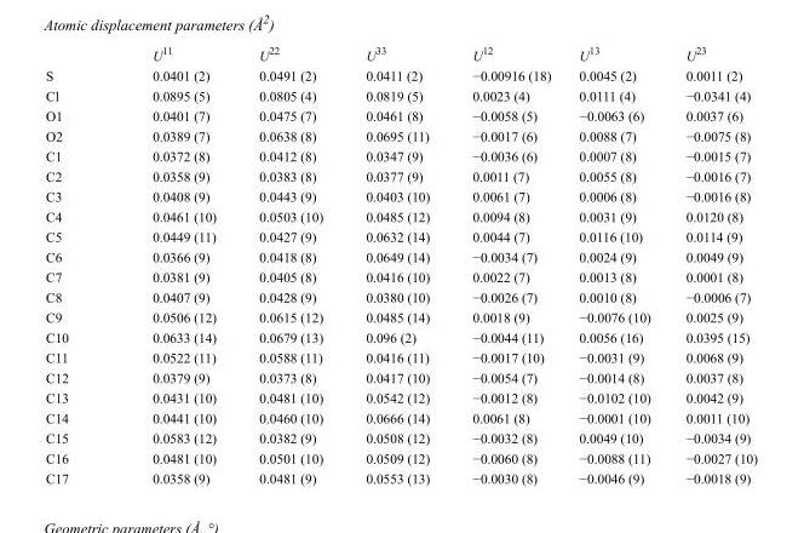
<table><thead><tr><td></td><td>U<sup>11</sup></td><td>U<sup>22</sup></td><td>U<sup>33</sup></td><td>U<sup>12</sup></td><td>U<sup>13</sup></td><td>U<sup>23</sup></td></tr></thead><tbody><tr><td>S</td><td>0.0401 (2)</td><td>0.0491 (2)</td><td>0.0411 (2)</td><td>−0.00916 (18)</td><td>0.0045 (2)</td><td>0.0011 (2)</td></tr><tr><td>Cl</td><td>0.0895 (5)</td><td>0.0805 (4)</td><td>0.0819 (5)</td><td>0.0023 (4)</td><td>0.0111 (4)</td><td>−0.0341 (4)</td></tr><tr><td>O1</td><td>0.0401 (7)</td><td>0.0475 (7)</td><td>0.0461 (8)</td><td>−0.0058 (5)</td><td>−0.0063 (6)</td><td>0.0037 (6)</td></tr><tr><td>O2</td><td>0.0389 (7)</td><td>0.0638 (8)</td><td>0.0695 (11)</td><td>−0.0017 (6)</td><td>0.0088 (7)</td><td>−0.0075 (8)</td></tr><tr><td>C1</td><td>0.0372 (8)</td><td>0.0412 (8)</td><td>0.0347 (9)</td><td>−0.0036 (6)</td><td>0.0007 (8)</td><td>−0.0015 (7)</td></tr><tr><td>C2</td><td>0.0358 (9)</td><td>0.0383 (8)</td><td>0.0377 (9)</td><td>0.0011 (7)</td><td>0.0055 (8)</td><td>−0.0016 (7)</td></tr><tr><td>C3</td><td>0.0408 (9)</td><td>0.0443 (9)</td><td>0.0403 (10)</td><td>0.0061 (7)</td><td>0.0006 (8)</td><td>−0.0016 (8)</td></tr><tr><td>C4</td><td>0.0461 (10)</td><td>0.0503 (10)</td><td>0.0485 (12)</td><td>0.0094 (8)</td><td>0.0031 (9)</td><td>0.0120 (8)</td></tr><tr><td>C5</td><td>0.0449 (11)</td><td>0.0427 (9)</td><td>0.0632 (14)</td><td>0.0044 (7)</td><td>0.0116 (10)</td><td>0.0114 (9)</td></tr><tr><td>C6</td><td>0.0366 (9)</td><td>0.0418 (8)</td><td>0.0649 (14)</td><td>−0.0034 (7)</td><td>0.0024 (9)</td><td>0.0049 (9)</td></tr><tr><td>C7</td><td>0.0381 (9)</td><td>0.0405 (8)</td><td>0.0416 (10)</td><td>0.0022 (7)</td><td>0.0013 (8)</td><td>0.0001 (8)</td></tr><tr><td>C8</td><td>0.0407 (9)</td><td>0.0428 (9)</td><td>0.0380 (10)</td><td>−0.0026 (7)</td><td>0.0010 (8)</td><td>−0.0006 (7)</td></tr><tr><td>C9</td><td>0.0506 (12)</td><td>0.0615 (12)</td><td>0.0485 (14)</td><td>0.0018 (9)</td><td>−0.0076 (10)</td><td>0.0025 (9)</td></tr><tr><td>C10</td><td>0.0633 (14)</td><td>0.0679 (13)</td><td>0.096 (2)</td><td>−0.0044 (11)</td><td>0.0056 (16)</td><td>0.0395 (15)</td></tr><tr><td>C11</td><td>0.0522 (11)</td><td>0.0588 (11)</td><td>0.0416 (11)</td><td>−0.0017 (10)</td><td>−0.0031 (9)</td><td>0.0068 (9)</td></tr><tr><td>C12</td><td>0.0379 (9)</td><td>0.0373 (8)</td><td>0.0417 (10)</td><td>−0.0054 (7)</td><td>−0.0014 (8)</td><td>0.0037 (8)</td></tr><tr><td>C13</td><td>0.0431 (10)</td><td>0.0481 (10)</td><td>0.0542 (12)</td><td>−0.0012 (8)</td><td>−0.0102 (10)</td><td>0.0042 (9)</td></tr><tr><td>C14</td><td>0.0441 (10)</td><td>0.0460 (10)</td><td>0.0666 (14)</td><td>0.0061 (8)</td><td>−0.0001 (10)</td><td>0.0011 (10)</td></tr><tr><td>C15</td><td>0.0583 (12)</td><td>0.0382 (9)</td><td>0.0508 (12)</td><td>−0.0032 (8)</td><td>0.0049 (10)</td><td>−0.0034 (9)</td></tr><tr><td>C16</td><td>0.0481 (10)</td><td>0.0501 (10)</td><td>0.0509 (12)</td><td>−0.0060 (8)</td><td>−0.0088 (11)</td><td>−0.0027 (10)</td></tr><tr><td>C17</td><td>0.0358 (9)</td><td>0.0481 (9)</td><td>0.0553 (13)</td><td>−0.0030 (8)</td><td>−0.0046 (9)</td><td>−0.0018 (9)</td></tr></tbody></table>